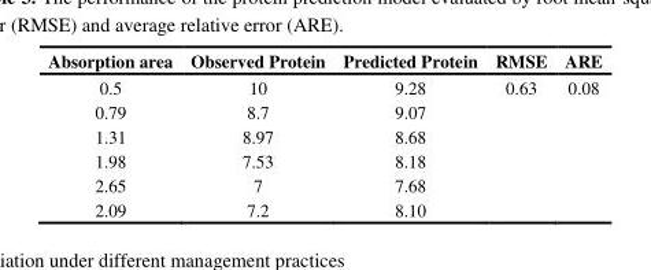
<table><thead><tr><td>Absorption area</td><td>Observed Protein</td><td>Predicted Protein</td><td>RMSE</td><td>ARE</td></tr></thead><tbody><tr><td>0.5</td><td>10</td><td>9.28</td><td>0.63</td><td>0.08</td></tr><tr><td>0.79</td><td>8.7</td><td>9.07</td><td></td><td></td></tr><tr><td>1.31</td><td>8.97</td><td>8.68</td><td></td><td></td></tr><tr><td>1.98</td><td>7.53</td><td>8.18</td><td></td><td></td></tr><tr><td>2.65</td><td>7</td><td>7.68</td><td></td><td></td></tr><tr><td>2.09</td><td>7.2</td><td>8.10</td><td></td><td></td></tr></tbody></table>